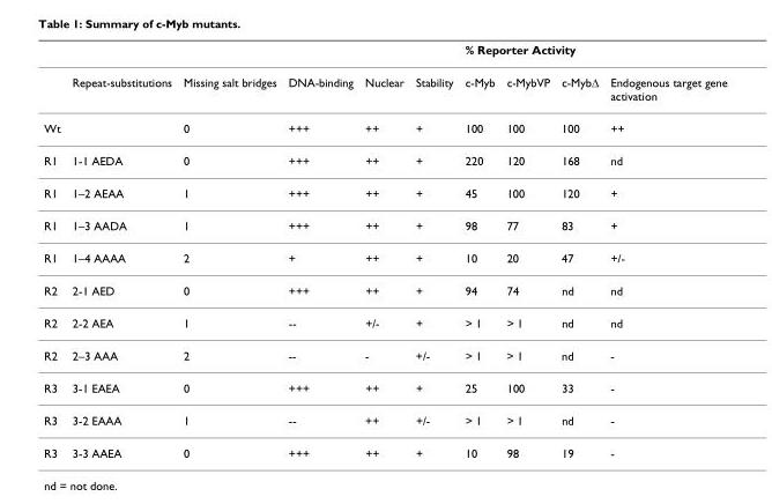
<table><thead><tr><td rowspan="2"></td><td rowspan="2">Repeat-substitutions</td><td rowspan="2">Missing salt bridges</td><td rowspan="2">DNA-binding</td><td rowspan="2">Nuclear</td><td rowspan="2">Stability</td><td colspan="3">% Reporter Activity</td><td rowspan="2">Endogenous target gene activation</td></tr><tr><td>c-Myb</td><td>c-MybVP</td><td>c-MybΔ</td></tr></thead><tbody><tr><td>Wt</td><td></td><td>0</td><td>+++</td><td>++</td><td>+</td><td>100</td><td>100</td><td>100</td><td>++</td></tr><tr><td>R1</td><td>1-1 AEDA</td><td>0</td><td>+++</td><td>++</td><td>+</td><td>220</td><td>120</td><td>168</td><td>nd</td></tr><tr><td>R1</td><td>1–2 AEAA</td><td>1</td><td>+++</td><td>++</td><td>+</td><td>45</td><td>100</td><td>120</td><td>+</td></tr><tr><td>R1</td><td>1–3 AADA</td><td>1</td><td>+++</td><td>++</td><td>+</td><td>98</td><td>77</td><td>83</td><td>+</td></tr><tr><td>R1</td><td>1–4 AAAA</td><td>2</td><td>+</td><td>++</td><td>+</td><td>10</td><td>20</td><td>47</td><td>+/-</td></tr><tr><td>R2</td><td>2-1 AED</td><td>0</td><td>+++</td><td>++</td><td>+</td><td>94</td><td>74</td><td>nd</td><td>nd</td></tr><tr><td>R2</td><td>2-2 AEA</td><td>1</td><td>--</td><td>+/-</td><td>+</td><td>&gt; 1</td><td>&gt; 1</td><td>nd</td><td>nd</td></tr><tr><td>R2</td><td>2–3 AAA</td><td>2</td><td>--</td><td>-</td><td>+/-</td><td>&gt; 1</td><td>&gt; 1</td><td>nd</td><td>-</td></tr><tr><td>R3</td><td>3-1 EAEA</td><td>0</td><td>+++</td><td>++</td><td>+</td><td>25</td><td>100</td><td>33</td><td>-</td></tr><tr><td>R3</td><td>3-2 EAAA</td><td>1</td><td>--</td><td>++</td><td>+/-</td><td>&gt; 1</td><td>&gt; 1</td><td>nd</td><td>-</td></tr><tr><td>R3</td><td>3-3 AAEA</td><td>0</td><td>+++</td><td>++</td><td>+</td><td>10</td><td>98</td><td>19</td><td>-</td></tr></tbody></table>